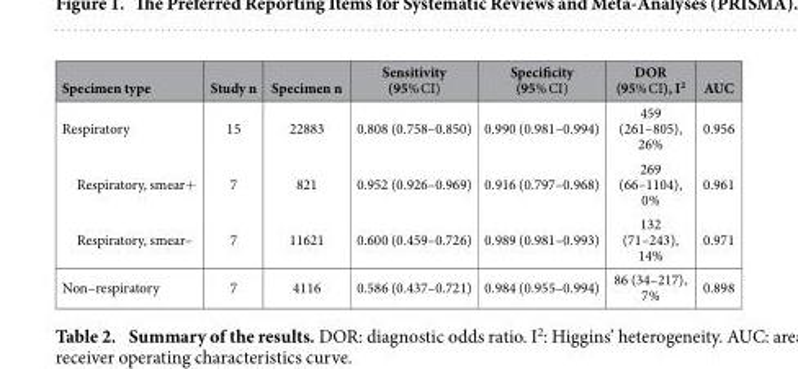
<table><thead><tr><td>Specimen type</td><td>Study n</td><td>Specimen n</td><td>Sensitivity (95% CI)</td><td>Specificity (95% CI)</td><td>DOR (95% CI), I<sup>2</sup></td><td>AUC</td></tr></thead><tbody><tr><td>Respiratory</td><td>15</td><td>22883</td><td>0.808 (0.758–0.850)</td><td>0.990 (0.981–0.994)</td><td>459 (261–805), 26%</td><td>0.956</td></tr><tr><td>Respiratory, smear+</td><td>7</td><td>821</td><td>0.952 (0.926–0.969)</td><td>0.916 (0.797–0.968)</td><td>269 (66–1104), 0%</td><td>0.961</td></tr><tr><td>Respiratory, smear–</td><td>7</td><td>11621</td><td>0.600 (0.459–0.726)</td><td>0.989 (0.981–0.993)</td><td>132 (71–243), 14%</td><td>0.971</td></tr><tr><td>Non–respiratory</td><td>7</td><td>4116</td><td>0.586 (0.437–0.721)</td><td>0.984 (0.955–0.994)</td><td>86 (34–217), 7%</td><td>0.898</td></tr></tbody></table>